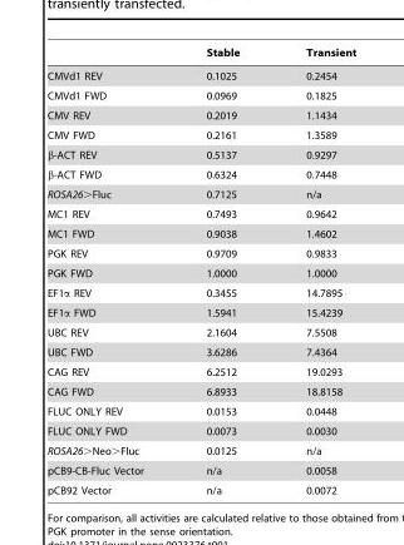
<table><thead><tr><td></td><td>Stable</td><td>Transient</td></tr></thead><tbody><tr><td>CMVd1 REV</td><td>0.1025</td><td>0.2454</td></tr><tr><td>CMVd1 FWD</td><td>0.0969</td><td>0.1825</td></tr><tr><td>CMV REV</td><td>0.2019</td><td>1.1434</td></tr><tr><td>CMV FWD</td><td>0.2161</td><td>1.3589</td></tr><tr><td>β-ACT REV</td><td>0.5137</td><td>0.9297</td></tr><tr><td>β-ACT FWD</td><td>0.6324</td><td>0.7448</td></tr><tr><td>ROSA26&gt;Fluc</td><td>0.7125</td><td>n/a</td></tr><tr><td>MC1 REV</td><td>0.7493</td><td>0.9642</td></tr><tr><td>MC1 FWD</td><td>0.9038</td><td>1.4602</td></tr><tr><td>PGK REV</td><td>0.9709</td><td>0.9833</td></tr><tr><td>PGK FWD</td><td>1.0000</td><td>1.0000</td></tr><tr><td>EF1α REV</td><td>0.3455</td><td>14.7895</td></tr><tr><td>EF1α FWD</td><td>1.5941</td><td>15.4239</td></tr><tr><td>UBC REV</td><td>2.1604</td><td>7.5508</td></tr><tr><td>UBC FWD</td><td>3.6286</td><td>7.4364</td></tr><tr><td>CAG REV</td><td>6.2512</td><td>19.0293</td></tr><tr><td>CAG FWD</td><td>6.8933</td><td>18.8158</td></tr><tr><td>FLUC ONLY REV</td><td>0.0153</td><td>0.0448</td></tr><tr><td>FLUC ONLY FWD</td><td>0.0073</td><td>0.0030</td></tr><tr><td>ROSA26&gt;Neo&gt;Fluc</td><td>0.0125</td><td>n/a</td></tr><tr><td>pCB9-CB-Fluc Vector</td><td>n/a</td><td>0.0058</td></tr><tr><td>pCB92 Vector</td><td>n/a</td><td>0.0072</td></tr></tbody></table>